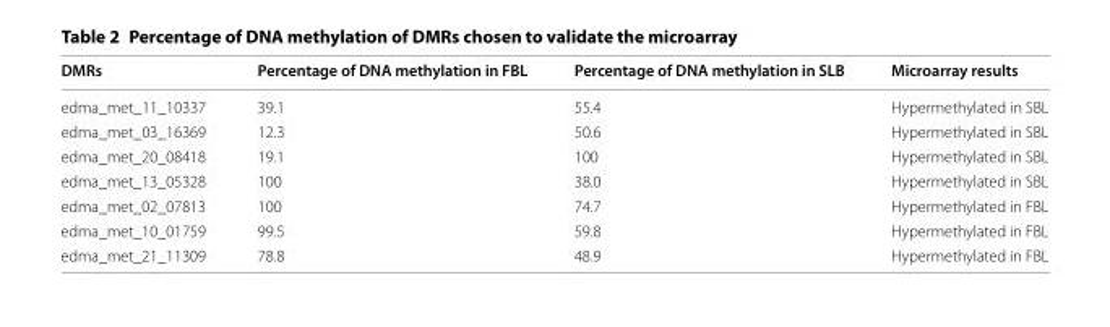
<table><thead><tr><td>DMRs</td><td>Percentage of DNA methylation in FBL</td><td>Percentage of DNA methylation in SLB</td><td>Microarray results</td></tr></thead><tbody><tr><td>edma_met_11_10337</td><td>39.1</td><td>55.4</td><td>Hypermethylated in SBL</td></tr><tr><td>edma_met_03_16369</td><td>12.3</td><td>50.6</td><td>Hypermethylated in SBL</td></tr><tr><td>edma_met_20_08418</td><td>19.1</td><td>100</td><td>Hypermethylated in SBL</td></tr><tr><td>edma_met_13_05328</td><td>100</td><td>38.0</td><td>Hypermethylated in SBL</td></tr><tr><td>edma_met_02_07813</td><td>100</td><td>74.7</td><td>Hypermethylated in FBL</td></tr><tr><td>edma_met_10_01759</td><td>99.5</td><td>59.8</td><td>Hypermethylated in FBL</td></tr><tr><td>edma_met_21_11309</td><td>78.8</td><td>48.9</td><td>Hypermethylated in FBL</td></tr></tbody></table>